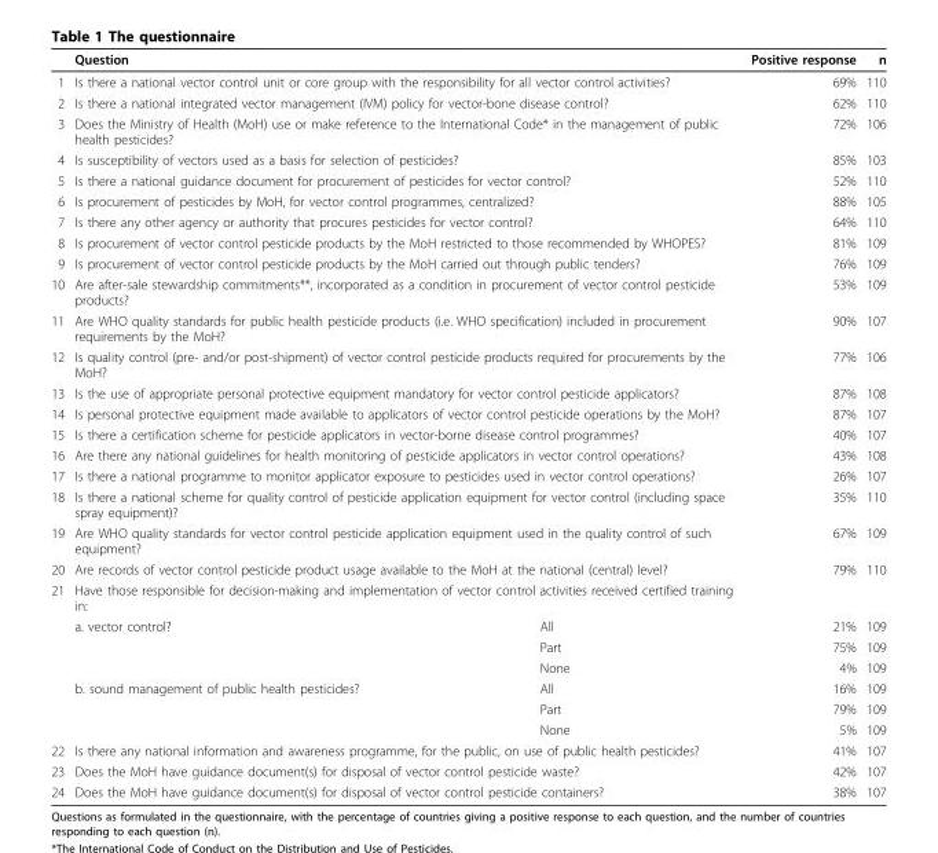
<table><thead><tr><td></td><td>Question</td><td></td><td>Positive response</td><td>n</td></tr></thead><tbody><tr><td>1</td><td colspan="2">Is there a national vector control unit or core group with the responsibility for all vector control activities?</td><td>69%</td><td>110</td></tr><tr><td>2</td><td colspan="2">Is there a national integrated vector management (IVM) policy for vector-bone disease control?</td><td>62%</td><td>110</td></tr><tr><td>3</td><td colspan="2">Does the Ministry of Health (MoH) use or make reference to the International Code* in the management of public health pesticides?</td><td>72%</td><td>106</td></tr><tr><td>4</td><td colspan="2">Is susceptibility of vectors used as a basis for selection of pesticides?</td><td>85%</td><td>103</td></tr><tr><td>5</td><td colspan="2">Is there a national guidance document for procurement of pesticides for vector control?</td><td>52%</td><td>110</td></tr><tr><td>6</td><td colspan="2">Is procurement of pesticides by MoH, for vector control programmes, centralized?</td><td>88%</td><td>105</td></tr><tr><td>7</td><td colspan="2">Is there any other agency or authority that procures pesticides for vector control?</td><td>64%</td><td>110</td></tr><tr><td>8</td><td colspan="2">Is procurement of vector control pesticide products by the MoH restricted to those recommended by WHOPES?</td><td>81%</td><td>109</td></tr><tr><td>9</td><td colspan="2">Is procurement of vector control pesticide products by the MoH carried out through public tenders?</td><td>76%</td><td>109</td></tr><tr><td>10</td><td colspan="2">Are after-sale stewardship commitments**, incorporated as a condition in procurement of vector control pesticide products?</td><td>53%</td><td>109</td></tr><tr><td>11</td><td colspan="2">Are WHO quality standards for public health pesticide products (i.e. WHO specification) included in procurement requirements by the MoH?</td><td>90%</td><td>107</td></tr><tr><td>12</td><td colspan="2">Is quality control (pre- and/or post-shipment) of vector control pesticide products required for procurements by the MoH?</td><td>77%</td><td>106</td></tr><tr><td>13</td><td colspan="2">Is the use of appropriate personal protective equipment mandatory for vector control pesticide applicators?</td><td>87%</td><td>108</td></tr><tr><td>14</td><td colspan="2">Is personal protective equipment made available to applicators of vector control pesticide operations by the MoH?</td><td>87%</td><td>107</td></tr><tr><td>15</td><td colspan="2">Is there a certification scheme for pesticide applicators in vector-borne disease control programmes?</td><td>40%</td><td>107</td></tr><tr><td>16</td><td colspan="2">Are there any national guidelines for health monitoring of pesticide applicators in vector control operations?</td><td>43%</td><td>108</td></tr><tr><td>17</td><td colspan="2">Is there a national programme to monitor applicator exposure to pesticides used in vector control operations?</td><td>26%</td><td>107</td></tr><tr><td>18</td><td colspan="2">Is there a national scheme for quality control of pesticide application equipment for vector control (including space spray equipment)?</td><td>35%</td><td>110</td></tr><tr><td>19</td><td colspan="2">Are WHO quality standards for vector control pesticide application equipment used in the quality control of such equipment?</td><td>67%</td><td>109</td></tr><tr><td>20</td><td colspan="2">Are records of vector control pesticide product usage available to the MoH at the national (central) level?</td><td>79%</td><td>110</td></tr><tr><td rowspan="7">21</td><td colspan="2">Have those responsible for decision-making and implementation of vector control activities received certified training in:</td><td></td><td></td></tr><tr><td>a. vector control?</td><td>All</td><td>21%</td><td>109</td></tr><tr><td></td><td>Part</td><td>75%</td><td>109</td></tr><tr><td></td><td>None</td><td>4%</td><td>109</td></tr><tr><td>b. sound management of public health pesticides?</td><td>All</td><td>16%</td><td>109</td></tr><tr><td></td><td>Part</td><td>79%</td><td>109</td></tr><tr><td></td><td>None</td><td>5%</td><td>109</td></tr><tr><td>22</td><td colspan="2">Is there any national information and awareness programme, for the public, on use of public health pesticides?</td><td>41%</td><td>107</td></tr><tr><td>23</td><td colspan="2">Does the MoH have guidance document(s) for disposal of vector control pesticide waste?</td><td>42%</td><td>107</td></tr><tr><td>24</td><td colspan="2">Does the MoH have guidance document(s) for disposal of vector control pesticide containers?</td><td>38%</td><td>107</td></tr></tbody></table>